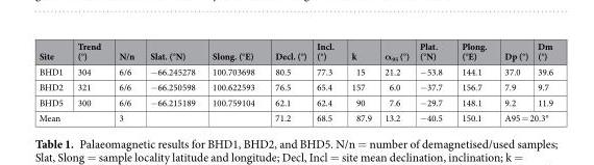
<table><thead><tr><td>Site</td><td>Trend (°)</td><td>N/n</td><td>Slat. (°N)</td><td>Slong. (°E)</td><td>Decl. (°)</td><td>Incl. (°)</td><td>k</td><td>α<sub>95</sub> (°)</td><td>Plat. (°N)</td><td>Plong. (°E)</td><td>Dp (°)</td><td>Dm (°)</td></tr></thead><tbody><tr><td>BHD1</td><td>304</td><td>6/6</td><td>−66.245278</td><td>100.703698</td><td>80.5</td><td>77.3</td><td>15</td><td>21.2</td><td>−53.8</td><td>144.1</td><td>37.0</td><td>39.6</td></tr><tr><td>BHD2</td><td>321</td><td>6/6</td><td>−66.250598</td><td>100.622593</td><td>76.5</td><td>65.4</td><td>157</td><td>6.0</td><td>−37.7</td><td>156.7</td><td>7.9</td><td>9.7</td></tr><tr><td>BHD5</td><td>300</td><td>6/6</td><td>−66.215189</td><td>100.759104</td><td>62.1</td><td>62.4</td><td>90</td><td>7.6</td><td>−29.7</td><td>148.1</td><td>9.2</td><td>11.9</td></tr><tr><td colspan="2">Mean</td><td>3</td><td></td><td></td><td>71.2</td><td>68.5</td><td>87.9</td><td>13.2</td><td>−40.5</td><td>150.1</td><td colspan="2">A95 = 20.3°</td></tr></tbody></table>